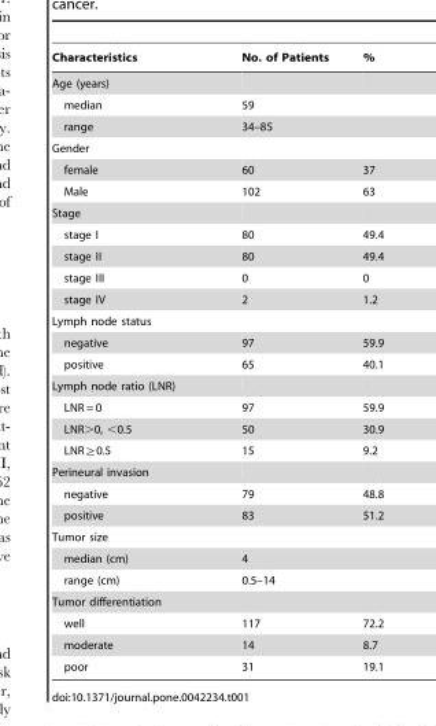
<table><thead><tr><td>Characteristics</td><td>No. of Patients</td><td>%</td></tr></thead><tbody><tr><td colspan="3">Age (years)</td></tr><tr><td>median</td><td colspan="2">59</td></tr><tr><td>range</td><td colspan="2">34–85</td></tr><tr><td colspan="3">Gender</td></tr><tr><td>female</td><td>60</td><td>37</td></tr><tr><td>Male</td><td>102</td><td>63</td></tr><tr><td colspan="3">Stage</td></tr><tr><td>stage I</td><td>80</td><td>49.4</td></tr><tr><td>stage II</td><td>80</td><td>49.4</td></tr><tr><td>stage III</td><td>0</td><td>0</td></tr><tr><td>stage IV</td><td>2</td><td>1.2</td></tr><tr><td colspan="3">Lymph node status</td></tr><tr><td>negative</td><td>97</td><td>59.9</td></tr><tr><td>positive</td><td>65</td><td>40.1</td></tr><tr><td colspan="3">Lymph node ratio (LNR)</td></tr><tr><td>LNR = 0</td><td>97</td><td>59.9</td></tr><tr><td>LNR&gt;0, &lt;0.5</td><td>50</td><td>30.9</td></tr><tr><td>LNR≧0.5</td><td>15</td><td>9.2</td></tr><tr><td colspan="3">Perineural invasion</td></tr><tr><td>negative</td><td>79</td><td>48.8</td></tr><tr><td>positive</td><td>83</td><td>51.2</td></tr><tr><td colspan="3">Tumor size</td></tr><tr><td>median (cm)</td><td colspan="2">4</td></tr><tr><td>range (cm)</td><td colspan="2">0.5–14</td></tr><tr><td colspan="3">Tumor differentiation</td></tr><tr><td>well</td><td>117</td><td>72.2</td></tr><tr><td>moderate</td><td>14</td><td>8.7</td></tr><tr><td>poor</td><td>31</td><td>19.1</td></tr></tbody></table>